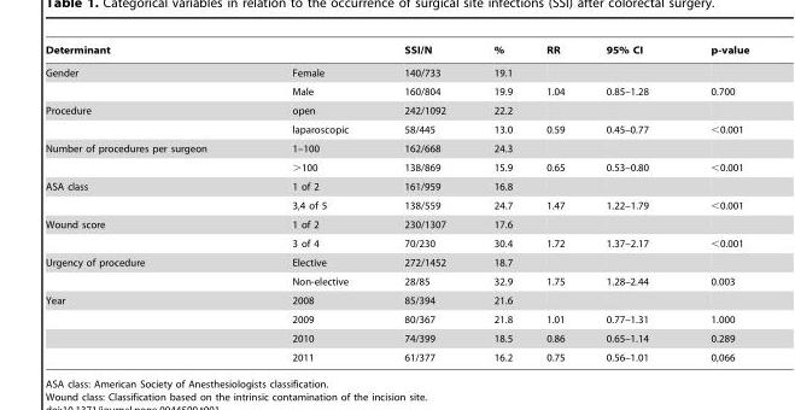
<table><thead><tr><td colspan="2">Determinant</td><td rowspan="2">SSI/N 140/733</td><td rowspan="2">% 19.1</td><td rowspan="2">RR</td><td rowspan="2">95% CI</td><td rowspan="2">p-value</td></tr><tr><td>Gender</td><td>Female</td></tr></thead><tbody><tr><td></td><td>Male</td><td>160/804</td><td>19.9</td><td>1.04</td><td>0.85–1.28</td><td>0.700</td></tr><tr><td rowspan="2">Procedure</td><td>open</td><td>242/1092</td><td>22.2</td><td></td><td></td><td></td></tr><tr><td>laparoscopic</td><td>58/445</td><td>13.0</td><td>0.59</td><td>0.45–0.77</td><td>&lt;0.001</td></tr><tr><td rowspan="2">Number of procedures per surgeon</td><td>1–100</td><td>162/668</td><td>24.3</td><td></td><td></td><td></td></tr><tr><td>&gt;100</td><td>138/869</td><td>15.9</td><td>0.65</td><td>0.53–0.80</td><td>&lt;0.001</td></tr><tr><td rowspan="2">ASA class</td><td>1 of 2</td><td>161/959</td><td>16.8</td><td></td><td></td><td></td></tr><tr><td>3,4 of 5</td><td>138/559</td><td>24.7</td><td>1.47</td><td>1.22–1.79</td><td>&lt;0.001</td></tr><tr><td rowspan="2">Wound score</td><td>1 of 2</td><td>230/1307</td><td>17.6</td><td></td><td></td><td></td></tr><tr><td>3 of 4</td><td>70/230</td><td>30.4</td><td>1.72</td><td>1.37–2.17</td><td>&lt;0.001</td></tr><tr><td rowspan="2">Urgency of procedure</td><td>Elective</td><td>272/1452</td><td>18.7</td><td></td><td></td><td></td></tr><tr><td>Non-elective</td><td>28/85</td><td>32.9</td><td>1.75</td><td>1.28–2.44</td><td>0.003</td></tr><tr><td rowspan="4">Year</td><td>2008</td><td>85/394</td><td>21.6</td><td></td><td></td><td></td></tr><tr><td>2009</td><td>80/367</td><td>21.8</td><td>1.01</td><td>0.77–1.31</td><td>1.000</td></tr><tr><td>2010</td><td>74/399</td><td>18.5</td><td>0.86</td><td>0.65–1.14</td><td>0.289</td></tr><tr><td>2011</td><td>61/377</td><td>16.2</td><td>0.75</td><td>0.56–1.01</td><td>0,066</td></tr></tbody></table>